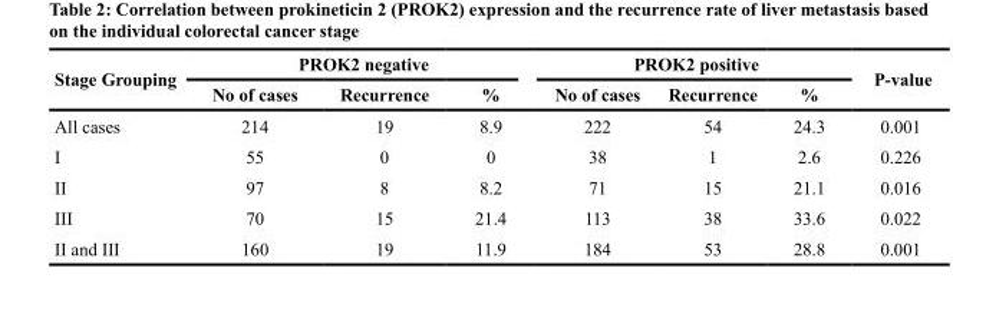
<table><thead><tr><td rowspan="2">Stage Grouping</td><td colspan="3">PROK2 negative</td><td colspan="3">PROK2 positive</td><td rowspan="2">P-value</td></tr><tr><td>No of cases</td><td>Recurrence</td><td>%</td><td>No of cases</td><td>Recurrence</td><td>%</td></tr></thead><tbody><tr><td>All cases</td><td>214</td><td>19</td><td>8.9</td><td>222</td><td>54</td><td>24.3</td><td>0.001</td></tr><tr><td>I</td><td>55</td><td>0</td><td>0</td><td>38</td><td>1</td><td>2.6</td><td>0.226</td></tr><tr><td>II</td><td>97</td><td>8</td><td>8.2</td><td>71</td><td>15</td><td>21.1</td><td>0.016</td></tr><tr><td>III</td><td>70</td><td>15</td><td>21.4</td><td>113</td><td>38</td><td>33.6</td><td>0.022</td></tr><tr><td>II and III</td><td>160</td><td>19</td><td>11.9</td><td>184</td><td>53</td><td>28.8</td><td>0.001</td></tr></tbody></table>